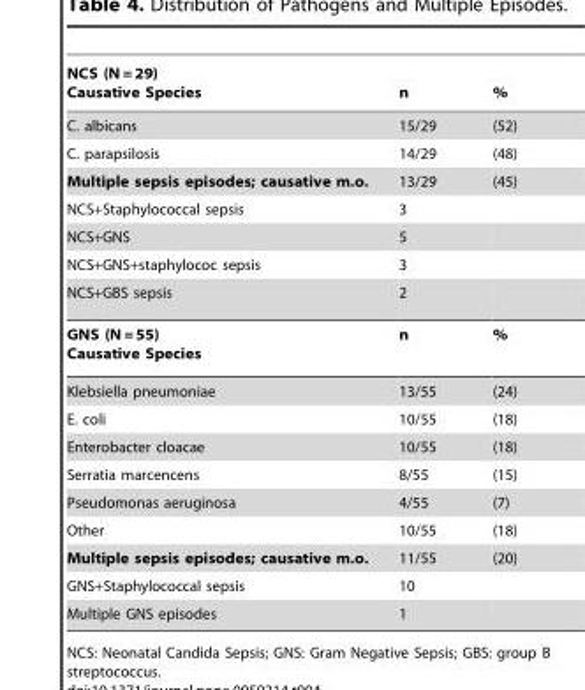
<table><thead><tr><td>NCS (N = 29) Causative Species</td><td>n</td><td>%</td></tr></thead><tbody><tr><td>C. albicans</td><td>15/29</td><td>(52)</td></tr><tr><td>C. parapsilosis</td><td>14/29</td><td>(48)</td></tr><tr><td>Multiple sepsis episodes; causative m.o.</td><td>13/29</td><td>(45)</td></tr><tr><td>NCS+Staphylococcal sepsis</td><td>3</td><td></td></tr><tr><td>NCS+GNS</td><td>5</td><td></td></tr><tr><td>NCS+GNS+staphylococ sepsis</td><td>3</td><td></td></tr><tr><td>NCS+GBS sepsis</td><td>2</td><td></td></tr><tr><td>GNS (N = 55) Causative Species</td><td>n</td><td>%</td></tr><tr><td>Klebsiella pneumoniae</td><td>13/55</td><td>(24)</td></tr><tr><td>E. coli</td><td>10/55</td><td>(18)</td></tr><tr><td>Enterobacter cloacae</td><td>10/55</td><td>(18)</td></tr><tr><td>Serratia marcencens</td><td>8/55</td><td>(15)</td></tr><tr><td>Pseudomonas aeruginosa</td><td>4/55</td><td>(7)</td></tr><tr><td>Other</td><td>10/55</td><td>(18)</td></tr><tr><td>Multiple sepsis episodes; causative m.o.</td><td>11/55</td><td>(20)</td></tr><tr><td>GNS+Staphylococcal sepsis</td><td>10</td><td></td></tr><tr><td>Multiple GNS episodes</td><td>1</td><td></td></tr></tbody></table>